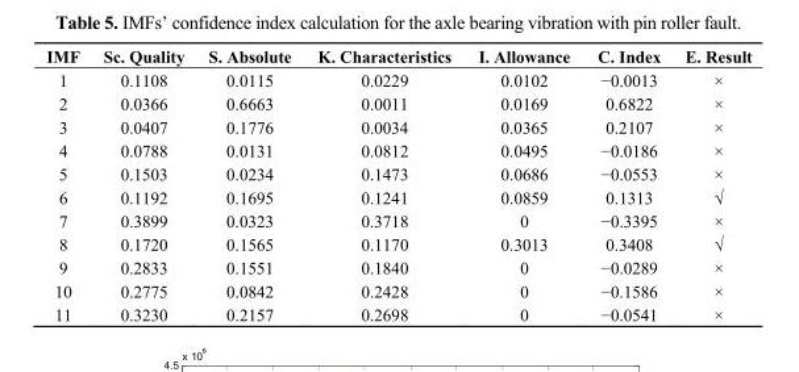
<table><thead><tr><td>IMF</td><td>Sc. Quality</td><td>S. Absolute</td><td>K. Characteristics</td><td>I. Allowance</td><td>C. Index</td><td>E. Result</td></tr></thead><tbody><tr><td>1</td><td>0.1108</td><td>0.0115</td><td>0.0229</td><td>0.0102</td><td>−0.0013</td><td>×</td></tr><tr><td>2</td><td>0.0366</td><td>0.6663</td><td>0.0011</td><td>0.0169</td><td>0.6822</td><td>×</td></tr><tr><td>3</td><td>0.0407</td><td>0.1776</td><td>0.0034</td><td>0.0365</td><td>0.2107</td><td>×</td></tr><tr><td>4</td><td>0.0788</td><td>0.0131</td><td>0.0812</td><td>0.0495</td><td>−0.0186</td><td>×</td></tr><tr><td>5</td><td>0.1503</td><td>0.0234</td><td>0.1473</td><td>0.0686</td><td>−0.0553</td><td>×</td></tr><tr><td>6</td><td>0.1192</td><td>0.1695</td><td>0.1241</td><td>0.0859</td><td>0.1313</td><td>√</td></tr><tr><td>7</td><td>0.3899</td><td>0.0323</td><td>0.3718</td><td>0</td><td>−0.3395</td><td>×</td></tr><tr><td>8</td><td>0.1720</td><td>0.1565</td><td>0.1170</td><td>0.3013</td><td>0.3408</td><td>√</td></tr><tr><td>9</td><td>0.2833</td><td>0.1551</td><td>0.1840</td><td>0</td><td>−0.0289</td><td>×</td></tr><tr><td>10</td><td>0.2775</td><td>0.0842</td><td>0.2428</td><td>0</td><td>−0.1586</td><td>×</td></tr><tr><td>11</td><td>0.3230</td><td>0.2157</td><td>0.2698</td><td>0</td><td>−0.0541</td><td>×</td></tr></tbody></table>